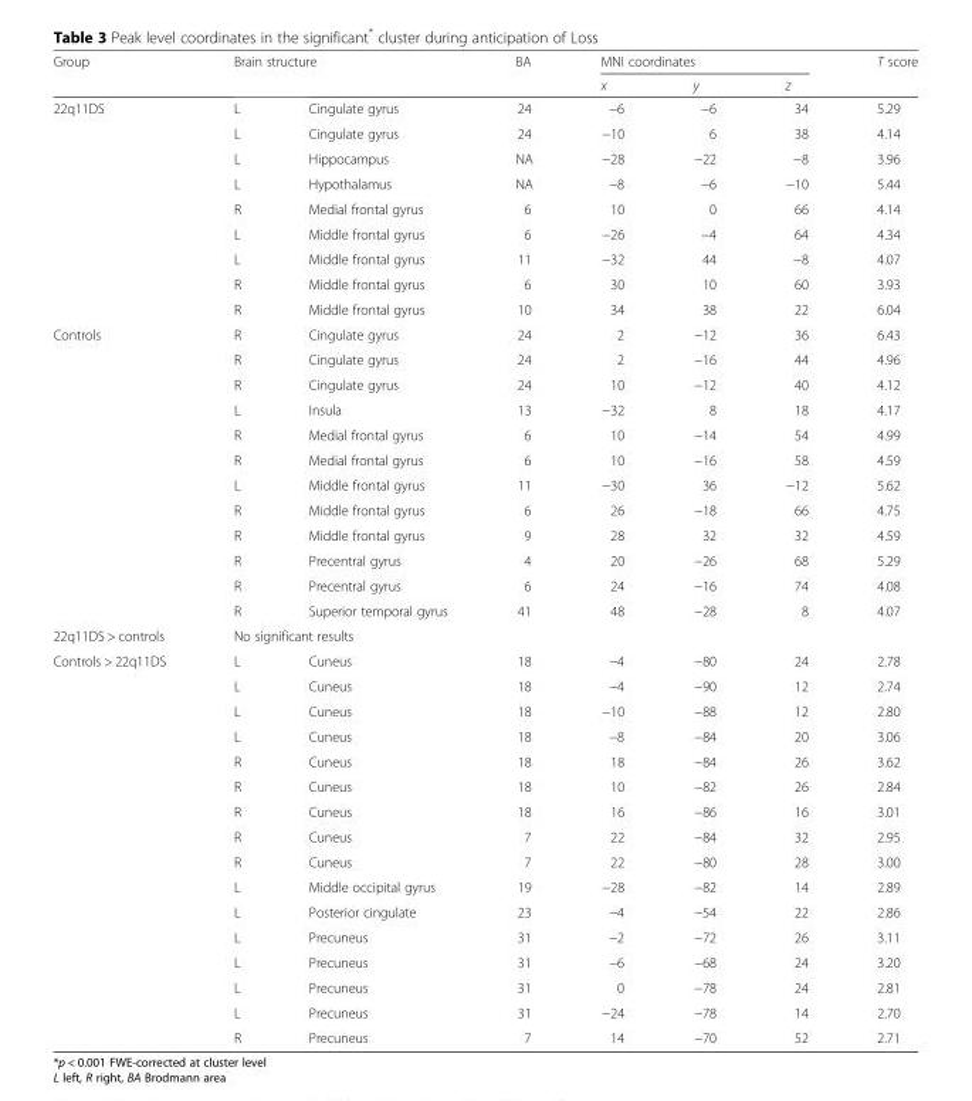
<table><thead><tr><td rowspan="2">Group</td><td colspan="2">Brain structure</td><td rowspan="2">BA</td><td colspan="3">MNI coordinates</td><td rowspan="2">T score</td></tr><tr><td></td><td></td><td>x</td><td>y</td><td>z</td></tr></thead><tbody><tr><td rowspan="9">22q11DS</td><td>L</td><td>Cingulate gyrus</td><td>24</td><td>−6</td><td>−6</td><td>34</td><td>5.29</td></tr><tr><td>L</td><td>Cingulate gyrus</td><td>24</td><td>−10</td><td>6</td><td>38</td><td>4.14</td></tr><tr><td>L</td><td>Hippocampus</td><td>NA</td><td>−28</td><td>−22</td><td>−8</td><td>3.96</td></tr><tr><td>L</td><td>Hypothalamus</td><td>NA</td><td>−8</td><td>−6</td><td>−10</td><td>5.44</td></tr><tr><td>R</td><td>Medial frontal gyrus</td><td>6</td><td>10</td><td>0</td><td>66</td><td>4.14</td></tr><tr><td>L</td><td>Middle frontal gyrus</td><td>6</td><td>−26</td><td>−4</td><td>64</td><td>4.34</td></tr><tr><td>L</td><td>Middle frontal gyrus</td><td>11</td><td>−32</td><td>44</td><td>−8</td><td>4.07</td></tr><tr><td>R</td><td>Middle frontal gyrus</td><td>6</td><td>30</td><td>10</td><td>60</td><td>3.93</td></tr><tr><td>R</td><td>Middle frontal gyrus</td><td>10</td><td>34</td><td>38</td><td>22</td><td>6.04</td></tr><tr><td rowspan="12">Controls</td><td>R</td><td>Cingulate gyrus</td><td>24</td><td>2</td><td>−12</td><td>36</td><td>6.43</td></tr><tr><td>R</td><td>Cingulate gyrus</td><td>24</td><td>2</td><td>−16</td><td>44</td><td>4.96</td></tr><tr><td>R</td><td>Cingulate gyrus</td><td>24</td><td>10</td><td>−12</td><td>40</td><td>4.12</td></tr><tr><td>L</td><td>Insula</td><td>13</td><td>−32</td><td>8</td><td>18</td><td>4.17</td></tr><tr><td>R</td><td>Medial frontal gyrus</td><td>6</td><td>10</td><td>−14</td><td>54</td><td>4.99</td></tr><tr><td>R</td><td>Medial frontal gyrus</td><td>6</td><td>10</td><td>−16</td><td>58</td><td>4.59</td></tr><tr><td>L</td><td>Middle frontal gyrus</td><td>11</td><td>−30</td><td>36</td><td>−12</td><td>5.62</td></tr><tr><td>R</td><td>Middle frontal gyrus</td><td>6</td><td>26</td><td>−18</td><td>66</td><td>4.75</td></tr><tr><td>R</td><td>Middle frontal gyrus</td><td>9</td><td>28</td><td>32</td><td>32</td><td>4.59</td></tr><tr><td>R</td><td>Precentral gyrus</td><td>4</td><td>20</td><td>−26</td><td>68</td><td>5.29</td></tr><tr><td>R</td><td>Precentral gyrus</td><td>6</td><td>24</td><td>−16</td><td>74</td><td>4.08</td></tr><tr><td>R</td><td>Superior temporal gyrus</td><td>41</td><td>48</td><td>−28</td><td>8</td><td>4.07</td></tr><tr><td>22q11DS &gt; controls</td><td colspan="2">No significant results</td><td></td><td></td><td></td><td></td><td></td></tr><tr><td rowspan="16">Controls &gt; 22q11DS</td><td>L</td><td>Cuneus</td><td>18</td><td>−4</td><td>−80</td><td>24</td><td>2.78</td></tr><tr><td>L</td><td>Cuneus</td><td>18</td><td>−4</td><td>−90</td><td>12</td><td>2.74</td></tr><tr><td>L</td><td>Cuneus</td><td>18</td><td>−10</td><td>−88</td><td>12</td><td>2.80</td></tr><tr><td>L</td><td>Cuneus</td><td>18</td><td>−8</td><td>−84</td><td>20</td><td>3.06</td></tr><tr><td>R</td><td>Cuneus</td><td>18</td><td>18</td><td>−84</td><td>26</td><td>3.62</td></tr><tr><td>R</td><td>Cuneus</td><td>18</td><td>10</td><td>−82</td><td>26</td><td>2.84</td></tr><tr><td>R</td><td>Cuneus</td><td>18</td><td>16</td><td>−86</td><td>16</td><td>3.01</td></tr><tr><td>R</td><td>Cuneus</td><td>7</td><td>22</td><td>−84</td><td>32</td><td>2.95</td></tr><tr><td>R</td><td>Cuneus</td><td>7</td><td>22</td><td>−80</td><td>28</td><td>3.00</td></tr><tr><td>L</td><td>Middle occipital gyrus</td><td>19</td><td>−28</td><td>−82</td><td>14</td><td>2.89</td></tr><tr><td>L</td><td>Posterior cingulate</td><td>23</td><td>−4</td><td>−54</td><td>22</td><td>2.86</td></tr><tr><td>L</td><td>Precuneus</td><td>31</td><td>−2</td><td>−72</td><td>26</td><td>3.11</td></tr><tr><td>L</td><td>Precuneus</td><td>31</td><td>−6</td><td>−68</td><td>24</td><td>3.20</td></tr><tr><td>L</td><td>Precuneus</td><td>31</td><td>0</td><td>−78</td><td>24</td><td>2.81</td></tr><tr><td>L</td><td>Precuneus</td><td>31</td><td>−24</td><td>−78</td><td>14</td><td>2.70</td></tr><tr><td>R</td><td>Precuneus</td><td>7</td><td>14</td><td>−70</td><td>52</td><td>2.71</td></tr></tbody></table>